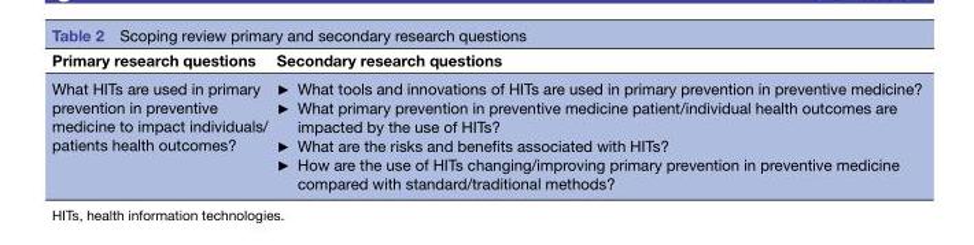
<table><thead><tr><td>Primary research questions</td><td>Secondary research questions</td></tr></thead><tbody><tr><td>What HITs are used in primary prevention in preventive medicine to impact individuals/ patients health outcomes?</td><td>► What tools and innovations of HITs are used in primary prevention in preventive medicine? ► What primary prevention in preventive medicine patient/individual health outcomes are impacted by the use of HITs? ► What are the risks and benefits associated with HITs? ► How are the use of HITs changing/improving primary prevention in preventive medicine compared with standard/traditional methods?</td></tr></tbody></table>